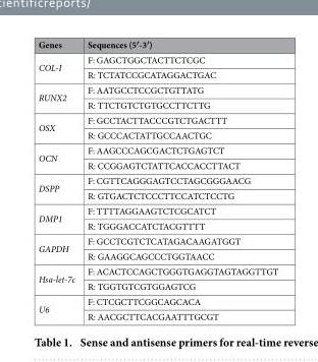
<table><thead><tr><td>Genes</td><td>Sequences (5′-3′)</td></tr></thead><tbody><tr><td rowspan="2">COL-I</td><td>F: GAGCTGGCTACTTCTCGC</td></tr><tr><td>R: TCTATCCGCATAGGACTGAC</td></tr><tr><td rowspan="2">RUNX2</td><td>F: AATGCCTCCGCTGTTATG</td></tr><tr><td>R: TTCTGTCTGTGCCTTCTTG</td></tr><tr><td rowspan="2">OSX</td><td>F: GCCTACTTACCCGTCTGACTTT</td></tr><tr><td>R: GCCCACTATTGCCAACTGC</td></tr><tr><td rowspan="2">OCN</td><td>F: AAGCCCAGCGACTCTGAGTCT</td></tr><tr><td>R: CCGGAGTCTATTCACCACCTTACT</td></tr><tr><td rowspan="2">DSPP</td><td>F: CGTTCAGGGAGTCCTAGCGGGAACG</td></tr><tr><td>R: GTGACTCTCCCTTCCATCTCCTG</td></tr><tr><td rowspan="2">DMP1</td><td>F: TTTTAGGAAGTCTCGCATCT</td></tr><tr><td>R: TGGGACCATCTACGTTTT</td></tr><tr><td rowspan="2">GAPDH</td><td>F: GCCTCGTCTCATAGACAAGATGGT</td></tr><tr><td>R: GAAGGCAGCCCTGGTAACC</td></tr><tr><td rowspan="2">Hsa-let-7c</td><td>F: ACACTCCAGCTGGGTGAGGTAGTAGGTTGT</td></tr><tr><td>R: TGGTGTCGTGGAGTCG</td></tr><tr><td rowspan="2">U6</td><td>F: CTCGCTTCGGCAGCACA</td></tr><tr><td>R: AACGCTTCACGAATTTGCGT</td></tr></tbody></table>